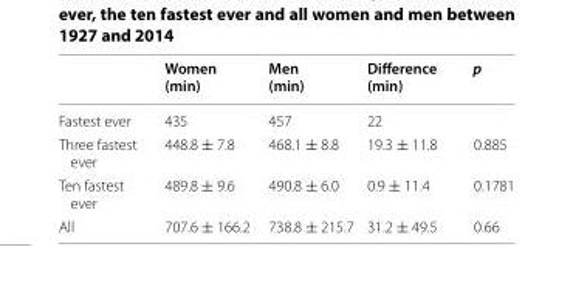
<table><thead><tr><td></td><td>Women (min)</td><td>Men (min)</td><td>Difference (min)</td><td>p</td></tr></thead><tbody><tr><td>Fastest ever</td><td>435</td><td>457</td><td>22</td><td></td></tr><tr><td>Three fastest ever</td><td>448.8 ± 7.8</td><td>468.1 ± 8.8</td><td>19.3 ± 11.8</td><td>0.885</td></tr><tr><td>Ten fastest ever</td><td>489.8 ± 9.6</td><td>490.8 ± 6.0</td><td>0.9 ± 11.4</td><td>0.1781</td></tr><tr><td>All</td><td>707.6 ± 166.2</td><td>738.8 ± 215.7</td><td>31.2 ± 49.5</td><td>0.66</td></tr></tbody></table>